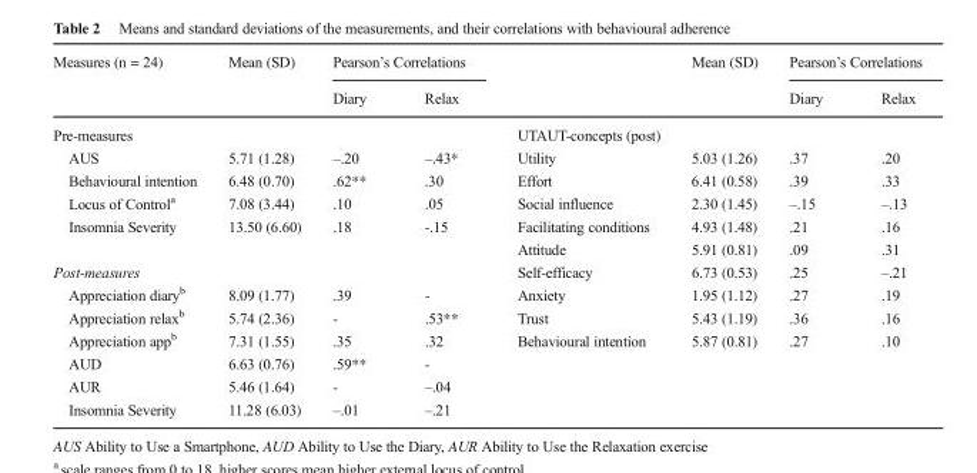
<table><thead><tr><td rowspan="2">Measures (n = 24)</td><td rowspan="2">Mean (SD)</td><td colspan="2">Pearson’s Correlations</td><td rowspan="2"></td><td rowspan="2">Mean (SD)</td><td colspan="2">Pearson’s Correlations</td></tr><tr><td>Diary</td><td>Relax</td><td>Diary</td><td>Relax</td></tr></thead><tbody><tr><td colspan="2">Pre-measures</td><td colspan="2"></td><td>UTAUT-concepts (post)</td><td colspan="3"></td></tr><tr><td>AUS</td><td>5.71 (1.28)</td><td>–.20</td><td>–.43*</td><td>Utility</td><td>5.03 (1.26)</td><td>.37</td><td>.20</td></tr><tr><td>Behavioural intention</td><td>6.48 (0.70)</td><td>.62**</td><td>.30</td><td>Effort</td><td>6.41 (0.58)</td><td>.39</td><td>.33</td></tr><tr><td>Locus of Control<sup>a</sup></td><td>7.08 (3.44)</td><td>.10</td><td>.05</td><td>Social influence</td><td>2.30 (1.45)</td><td>–.15</td><td>–.13</td></tr><tr><td rowspan="2">Insomnia Severity</td><td>13.50 (6.60)</td><td>.18</td><td>-.15</td><td>Facilitating conditions</td><td>4.93 (1.48)</td><td>.21</td><td>.16</td></tr><tr><td></td><td></td><td></td><td>Attitude</td><td>5.91 (0.81)</td><td>.09</td><td>.31</td></tr><tr><td>Post-measures</td><td></td><td></td><td></td><td>Self-efficacy</td><td>6.73 (0.53)</td><td>.25</td><td>–.21</td></tr><tr><td>Appreciation diary<sup>b</sup></td><td>8.09 (1.77)</td><td>.39</td><td>-</td><td>Anxiety</td><td>1.95 (1.12)</td><td>.27</td><td>.19</td></tr><tr><td>Appreciation relax<sup>b</sup></td><td>5.74 (2.36)</td><td>-</td><td>.53**</td><td>Trust</td><td>5.43 (1.19)</td><td>.36</td><td>.16</td></tr><tr><td>Appreciation app<sup>b</sup></td><td>7.31 (1.55)</td><td>.35</td><td>.32</td><td>Behavioural intention</td><td>5.87 (0.81)</td><td>.27</td><td>.10</td></tr><tr><td>AUD</td><td>6.63 (0.76)</td><td>.59**</td><td>-</td><td></td><td></td><td></td><td></td></tr><tr><td>AUR</td><td>5.46 (1.64)</td><td>-</td><td>–.04</td><td></td><td></td><td></td><td></td></tr><tr><td>Insomnia Severity</td><td>11.28 (6.03)</td><td>–.01</td><td>–.21</td><td></td><td></td><td></td><td></td></tr></tbody></table>